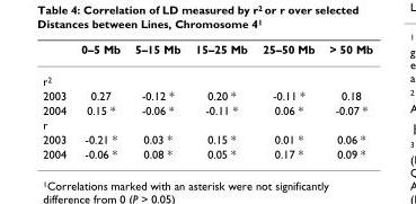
<table><thead><tr><td></td><td>0–5 Mb</td><td>5–15 Mb</td><td>15–25 Mb</td><td>25–50 Mb</td><td>&gt; 50 Mb</td></tr></thead><tbody><tr><td colspan="6">r<sup>2</sup></td></tr><tr><td>2003</td><td>0.27</td><td>-0.12 *</td><td>0.20 *</td><td>-0.11 *</td><td>0.18</td></tr><tr><td>2004</td><td>0.15 *</td><td>-0.06 *</td><td>-0.11 *</td><td>0.06 *</td><td>-0.07 *</td></tr><tr><td colspan="6">r</td></tr><tr><td>2003</td><td>-0.21 *</td><td>0.03 *</td><td>0.15 *</td><td>0.01 *</td><td>0.06 *</td></tr><tr><td>2004</td><td>-0.06 *</td><td>0.08 *</td><td>0.05 *</td><td>0.17 *</td><td>0.09 *</td></tr></tbody></table>